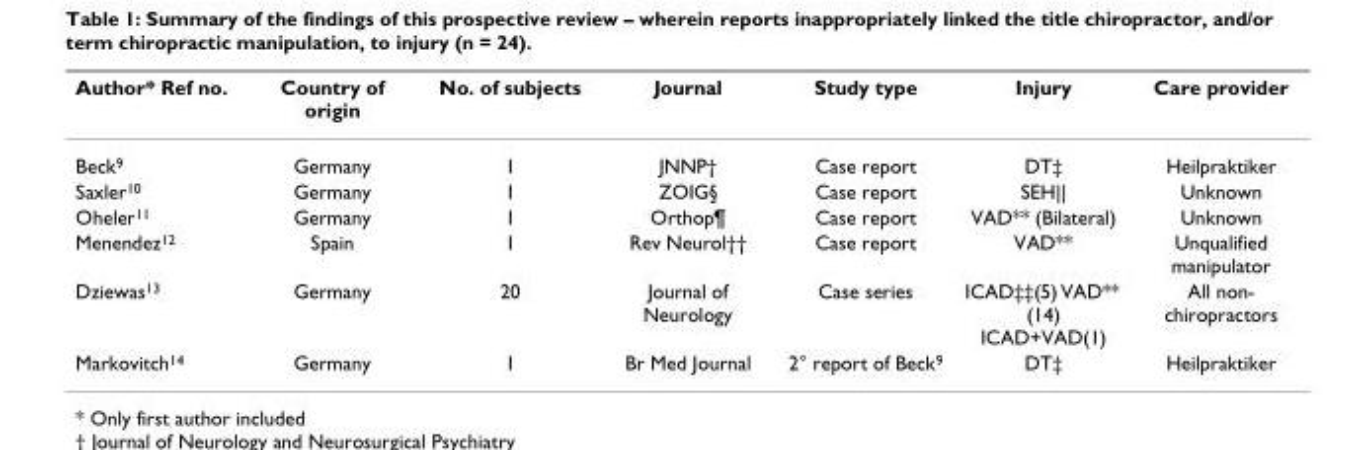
<table><thead><tr><td>Author* Ref no.</td><td>Country of origin</td><td>No. of subjects</td><td>Journal</td><td>Study type</td><td>Injury</td><td>Care provider</td></tr></thead><tbody><tr><td>Beck<sup>9</sup></td><td>Germany</td><td>1</td><td>JNNP†</td><td>Case report</td><td>DT‡</td><td>Heilpraktiker</td></tr><tr><td>Saxler<sup>10</sup></td><td>Germany</td><td>1</td><td>ZOIG§</td><td>Case report</td><td>SEH||</td><td>Unknown</td></tr><tr><td>Oheler<sup>11</sup></td><td>Germany</td><td>1</td><td>Orthop¶</td><td>Case report</td><td>VAD** (Bilateral)</td><td>Unknown</td></tr><tr><td>Menendez<sup>12</sup></td><td>Spain</td><td>1</td><td>Rev Neurol††</td><td>Case report</td><td>VAD**</td><td>Unqualified manipulator</td></tr><tr><td>Dziewas<sup>13</sup></td><td>Germany</td><td>20</td><td>Journal of Neurology</td><td>Case series</td><td>ICAD‡‡(5) VAD** (14) ICAD+VAD(1)</td><td>All non- chiropractors</td></tr><tr><td>Markovitch<sup>14</sup></td><td>Germany</td><td>1</td><td>Br Med Journal</td><td>2° report of Beck<sup>9</sup></td><td>DT‡</td><td>Heilpraktiker</td></tr></tbody></table>